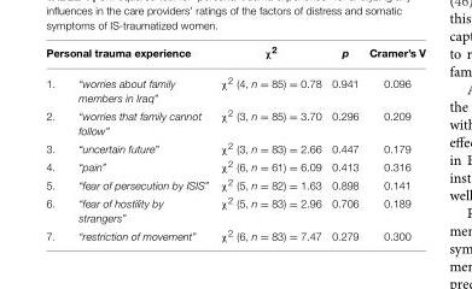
<table><thead><tr><td colspan="2">Personal trauma experience</td><td rowspan="2">χ<sup>2</sup> χ<sup>2</sup> (4, n = 85) = 0.78</td><td rowspan="2">p 0.941</td><td rowspan="2">Cramer’s V 0.096</td></tr><tr><td>1.</td><td>“worries about family members in Iraq”</td></tr></thead><tbody><tr><td>2.</td><td>“worries that family cannot follow”</td><td>χ<sup>2</sup> (3, n = 85) = 3.70</td><td>0.296</td><td>0.209</td></tr><tr><td>3.</td><td>“uncertain future”</td><td>χ<sup>2</sup> (3, n = 83) = 2.66</td><td>0.447</td><td>0.179</td></tr><tr><td>4.</td><td>“pain”</td><td>χ<sup>2</sup> (6, n = 61) = 6.09</td><td>0.413</td><td>0.316</td></tr><tr><td>5.</td><td>“fear of persecution by ISIS”</td><td>χ<sup>2</sup> (5, n = 82) = 1.63</td><td>0.898</td><td>0.141</td></tr><tr><td>6.</td><td>“fear of hostility by strangers”</td><td>χ<sup>2</sup> (5, n = 83) = 2.96</td><td>0.706</td><td>0.189</td></tr><tr><td>7.</td><td>“restriction of movement”</td><td>χ<sup>2</sup> (6, n = 83) = 7.47</td><td>0.279</td><td>0.300</td></tr></tbody></table>